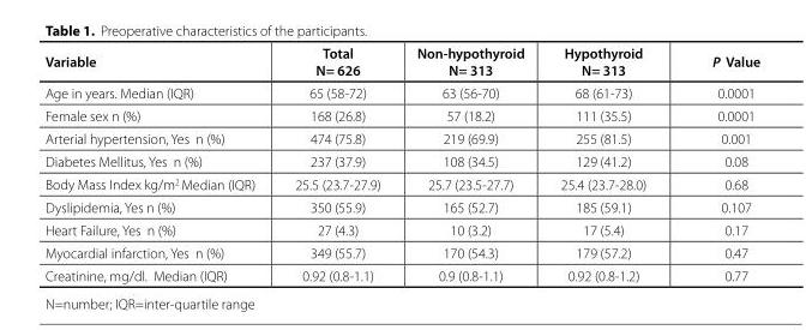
<table><thead><tr><td>Variable</td><td>Total N= 626</td><td>Non-hypothyroid N= 313</td><td>Hypothyroid N= 313</td><td>P Value</td></tr></thead><tbody><tr><td>Age in years. Median (IQR)</td><td>65 (58-72)</td><td>63 (56-70)</td><td>68 (61-73)</td><td>0.0001</td></tr><tr><td>Female sex n (%)</td><td>168 (26.8)</td><td>57 (18.2)</td><td>111 (35.5)</td><td>0.0001</td></tr><tr><td>Arterial hypertension, Yes n (%)</td><td>474 (75.8)</td><td>219 (69.9)</td><td>255 (81.5)</td><td>0.001</td></tr><tr><td>Diabetes Mellitus, Yes n (%)</td><td>237 (37.9)</td><td>108 (34.5)</td><td>129 (41.2)</td><td>0.08</td></tr><tr><td>Body Mass Index kg/m<sup>2</sup> Median (IQR)</td><td>25.5 (23.7-27.9)</td><td>25.7 (23.5-27.7)</td><td>25.4 (23.7-28.0)</td><td>0.68</td></tr><tr><td>Dyslipidemia, Yes n (%)</td><td>350 (55.9)</td><td>165 (52.7)</td><td>185 (59.1)</td><td>0.107</td></tr><tr><td>Heart Failure, Yes n (%)</td><td>27 (4.3)</td><td>10 (3.2)</td><td>17 (5.4)</td><td>0.17</td></tr><tr><td>Myocardial infarction, Yes n (%)</td><td>349 (55.7)</td><td>170 (54.3)</td><td>179 (57.2)</td><td>0.47</td></tr><tr><td>Creatinine, mg/dl. Median (IQR)</td><td>0.92 (0.8-1.1)</td><td>0.9 (0.8-1.1)</td><td>0.92 (0.8-1.2)</td><td>0.77</td></tr></tbody></table>